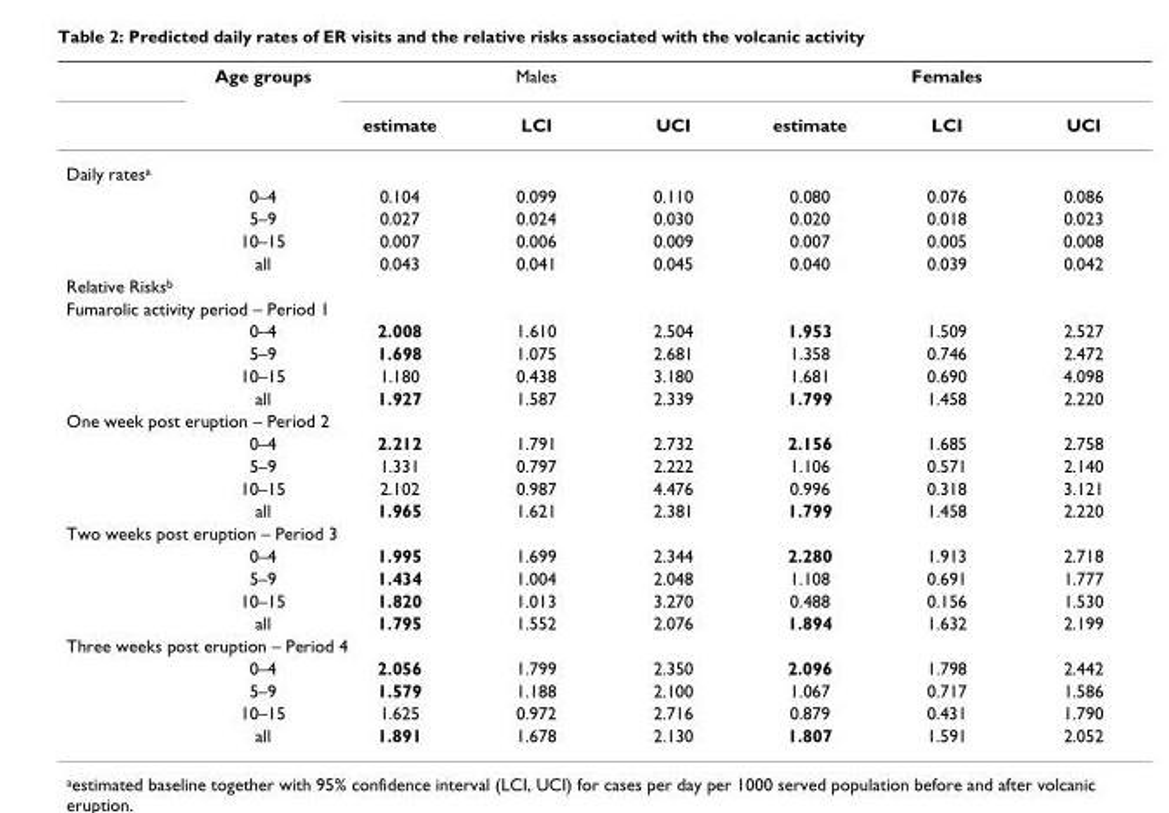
<table><thead><tr><td rowspan="2"></td><td rowspan="2">Age groups</td><td colspan="3">Males</td><td colspan="3">Females</td></tr><tr><td>estimate</td><td>LCI</td><td>UCI</td><td>estimate</td><td>LCI</td><td>UCI</td></tr></thead><tbody><tr><td colspan="8">Daily rates<sup>a</sup></td></tr><tr><td></td><td>0–4</td><td>0.104</td><td>0.099</td><td>0.110</td><td>0.080</td><td>0.076</td><td>0.086</td></tr><tr><td></td><td>5–9</td><td>0.027</td><td>0.024</td><td>0.030</td><td>0.020</td><td>0.018</td><td>0.023</td></tr><tr><td></td><td>10–15</td><td>0.007</td><td>0.006</td><td>0.009</td><td>0.007</td><td>0.005</td><td>0.008</td></tr><tr><td></td><td>all</td><td>0.043</td><td>0.041</td><td>0.045</td><td>0.040</td><td>0.039</td><td>0.042</td></tr><tr><td colspan="8">Relative Risks<sup>b</sup></td></tr><tr><td colspan="8">Fumarolic activity period – Period 1</td></tr><tr><td></td><td>0–4</td><td>2.008</td><td>1.610</td><td>2.504</td><td>1.953</td><td>1.509</td><td>2.527</td></tr><tr><td></td><td>5–9</td><td>1.698</td><td>1.075</td><td>2.681</td><td>1.358</td><td>0.746</td><td>2.472</td></tr><tr><td></td><td>10–15</td><td>1.180</td><td>0.438</td><td>3.180</td><td>1.681</td><td>0.690</td><td>4.098</td></tr><tr><td></td><td>all</td><td>1.927</td><td>1.587</td><td>2.339</td><td>1.799</td><td>1.458</td><td>2.220</td></tr><tr><td colspan="8">One week post eruption – Period 2</td></tr><tr><td></td><td>0–4</td><td>2.212</td><td>1.791</td><td>2.732</td><td>2.156</td><td>1.685</td><td>2.758</td></tr><tr><td></td><td>5–9</td><td>1.331</td><td>0.797</td><td>2.222</td><td>1.106</td><td>0.571</td><td>2.140</td></tr><tr><td></td><td>10–15</td><td>2.102</td><td>0.987</td><td>4.476</td><td>0.996</td><td>0.318</td><td>3.121</td></tr><tr><td></td><td>all</td><td>1.965</td><td>1.621</td><td>2.381</td><td>1.799</td><td>1.458</td><td>2.220</td></tr><tr><td colspan="8">Two weeks post eruption – Period 3</td></tr><tr><td></td><td>0–4</td><td>1.995</td><td>1.699</td><td>2.344</td><td>2.280</td><td>1.913</td><td>2.718</td></tr><tr><td></td><td>5–9</td><td>1.434</td><td>1.004</td><td>2.048</td><td>1.108</td><td>0.691</td><td>1.777</td></tr><tr><td></td><td>10–15</td><td>1.820</td><td>1.013</td><td>3.270</td><td>0.488</td><td>0.156</td><td>1.530</td></tr><tr><td></td><td>all</td><td>1.795</td><td>1.552</td><td>2.076</td><td>1.894</td><td>1.632</td><td>2.199</td></tr><tr><td colspan="8">Three weeks post eruption – Period 4</td></tr><tr><td></td><td>0–4</td><td>2.056</td><td>1.799</td><td>2.350</td><td>2.096</td><td>1.798</td><td>2.442</td></tr><tr><td></td><td>5–9</td><td>1.579</td><td>1.188</td><td>2.100</td><td>1.067</td><td>0.717</td><td>1.586</td></tr><tr><td></td><td>10–15</td><td>1.625</td><td>0.972</td><td>2.716</td><td>0.879</td><td>0.431</td><td>1.790</td></tr><tr><td></td><td>all</td><td>1.891</td><td>1.678</td><td>2.130</td><td>1.807</td><td>1.591</td><td>2.052</td></tr></tbody></table>